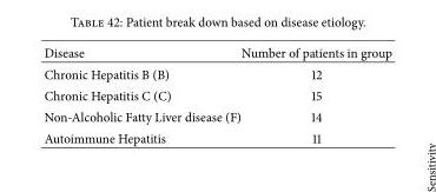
<table><thead><tr><td>Disease</td><td>Number of patients in group</td></tr></thead><tbody><tr><td>Chronic Hepatitis B (B)</td><td>12</td></tr><tr><td>Chronic Hepatitis C (C)</td><td>15</td></tr><tr><td>Non-Alcoholic Fatty Liver disease (F)</td><td>14</td></tr><tr><td>Autoimmune Hepatitis</td><td>11</td></tr></tbody></table>